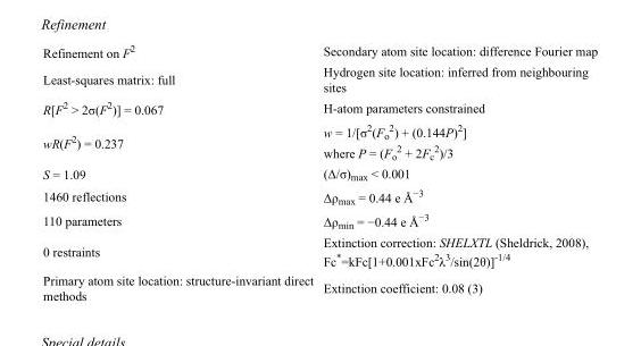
<table><tbody><tr><td>Refinement on F<sup>2</sup></td><td>Secondary atom site location: difference Fourier map</td></tr><tr><td>Least-squares matrix: full</td><td>Hydrogen site location: inferred from neighbouring sites</td></tr><tr><td>R[F<sup>2</sup> &gt; 2σ(F<sup>2</sup>)] = 0.067</td><td>H-atom parameters constrained</td></tr><tr><td>wR(F<sup>2</sup>) = 0.237</td><td>w = 1/[σ<sup>2</sup>(F<sub>o</sub> <sup>2</sup>) + (0.144P)<sup>2</sup>] where P = (F<sub>o</sub> <sup>2</sup> + 2F<sub>c</sub> <sup>2</sup>)/3</td></tr><tr><td>S = 1.09</td><td>(Δ/σ)<sub>max</sub> &lt; 0.001</td></tr><tr><td>1460 reflections</td><td>Δρ<sub>max</sub> = 0.44 e Å<sup>−3</sup></td></tr><tr><td>110 parameters</td><td>Δρ<sub>min</sub> = −0.44 e Å<sup>−3</sup></td></tr><tr><td>0 restraints</td><td>Extinction correction: SHELXTL (Sheldrick, 2008), Fc*=kFc[1+0.001xFc<sup>2</sup>λ<sup>3</sup>/sin(2θ)]<sup>-1/4</sup></td></tr><tr><td>Primary atom site location: structure-invariant direct methods</td><td>Extinction coefficient: 0.08 (3)</td></tr></tbody></table>